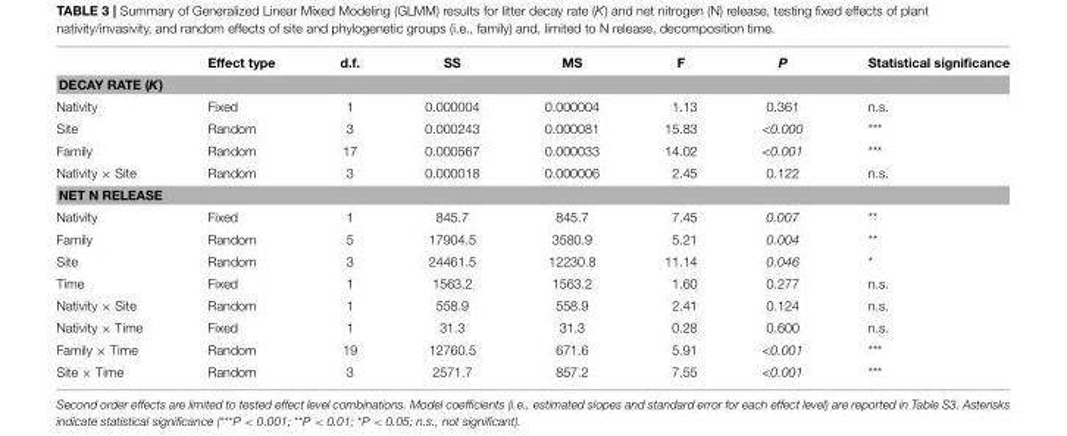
<table><thead><tr><td></td><td>Effect type</td><td>d.f.</td><td>SS</td><td>MS</td><td>F</td><td>P</td><td>Statistical significance</td></tr></thead><tbody><tr><td colspan="8">DECAY RATE (K)</td></tr><tr><td>Nativity</td><td>Fixed</td><td>1</td><td>0.000004</td><td>0.000004</td><td>1.13</td><td>0.361</td><td>n.s.</td></tr><tr><td>Site</td><td>Random</td><td>3</td><td>0.000243</td><td>0.000081</td><td>15.83</td><td>&lt;0.000</td><td>***</td></tr><tr><td>Family</td><td>Random</td><td>17</td><td>0.000567</td><td>0.000033</td><td>14.02</td><td>&lt;0.001</td><td>***</td></tr><tr><td>Nativity × Site</td><td>Random</td><td>3</td><td>0.000018</td><td>0.000006</td><td>2.45</td><td>0.122</td><td>n.s.</td></tr><tr><td colspan="8">NET N RELEASE</td></tr><tr><td>Nativity</td><td>Fixed</td><td>1</td><td>845.7</td><td>845.7</td><td>7.45</td><td>0.007</td><td>**</td></tr><tr><td>Family</td><td>Random</td><td>5</td><td>17904.5</td><td>3580.9</td><td>5.21</td><td>0.004</td><td>**</td></tr><tr><td>Site</td><td>Random</td><td>3</td><td>24461.5</td><td>12230.8</td><td>11.14</td><td>0.046</td><td>*</td></tr><tr><td>Time</td><td>Fixed</td><td>1</td><td>1563.2</td><td>1563.2</td><td>1.60</td><td>0.277</td><td>n.s.</td></tr><tr><td>Nativity × Site</td><td>Random</td><td>1</td><td>558.9</td><td>558.9</td><td>2.41</td><td>0.124</td><td>n.s.</td></tr><tr><td>Nativity × Time</td><td>Fixed</td><td>1</td><td>31.3</td><td>31.3</td><td>0.28</td><td>0.600</td><td>n.s.</td></tr><tr><td>Family × Time</td><td>Random</td><td>19</td><td>12760.5</td><td>671.6</td><td>5.91</td><td>&lt;0.001</td><td>***</td></tr><tr><td>Site × Time</td><td>Random</td><td>3</td><td>2571.7</td><td>857.2</td><td>7.55</td><td>&lt;0.001</td><td>***</td></tr></tbody></table>